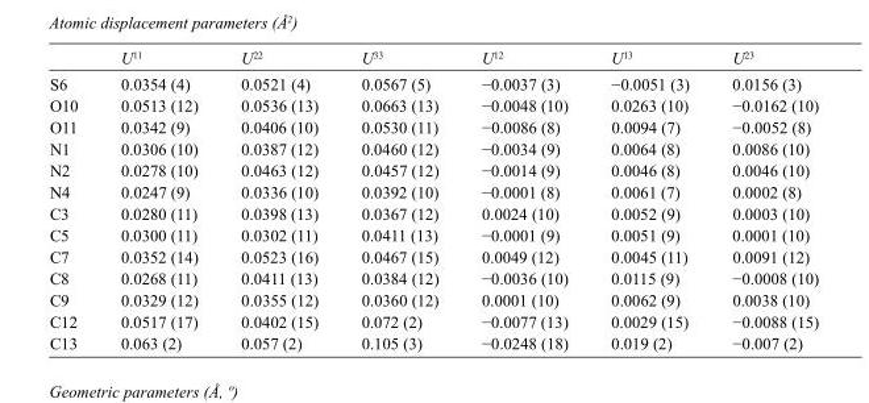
<table><thead><tr><td></td><td>U<sup>11</sup></td><td>U<sup>22</sup></td><td>U<sup>33</sup></td><td>U<sup>12</sup></td><td>U<sup>13</sup></td><td>U<sup>23</sup></td></tr></thead><tbody><tr><td>S6</td><td>0.0354 (4)</td><td>0.0521 (4)</td><td>0.0567 (5)</td><td>−0.0037 (3)</td><td>−0.0051 (3)</td><td>0.0156 (3)</td></tr><tr><td>O10</td><td>0.0513 (12)</td><td>0.0536 (13)</td><td>0.0663 (13)</td><td>−0.0048 (10)</td><td>0.0263 (10)</td><td>−0.0162 (10)</td></tr><tr><td>O11</td><td>0.0342 (9)</td><td>0.0406 (10)</td><td>0.0530 (11)</td><td>−0.0086 (8)</td><td>0.0094 (7)</td><td>−0.0052 (8)</td></tr><tr><td>N1</td><td>0.0306 (10)</td><td>0.0387 (12)</td><td>0.0460 (12)</td><td>−0.0034 (9)</td><td>0.0064 (8)</td><td>0.0086 (10)</td></tr><tr><td>N2</td><td>0.0278 (10)</td><td>0.0463 (12)</td><td>0.0457 (12)</td><td>−0.0014 (9)</td><td>0.0046 (8)</td><td>0.0046 (10)</td></tr><tr><td>N4</td><td>0.0247 (9)</td><td>0.0336 (10)</td><td>0.0392 (10)</td><td>−0.0001 (8)</td><td>0.0061 (7)</td><td>0.0002 (8)</td></tr><tr><td>C3</td><td>0.0280 (11)</td><td>0.0398 (13)</td><td>0.0367 (12)</td><td>0.0024 (10)</td><td>0.0052 (9)</td><td>0.0003 (10)</td></tr><tr><td>C5</td><td>0.0300 (11)</td><td>0.0302 (11)</td><td>0.0411 (13)</td><td>−0.0001 (9)</td><td>0.0051 (9)</td><td>0.0001 (10)</td></tr><tr><td>C7</td><td>0.0352 (14)</td><td>0.0523 (16)</td><td>0.0467 (15)</td><td>0.0049 (12)</td><td>0.0045 (11)</td><td>0.0091 (12)</td></tr><tr><td>C8</td><td>0.0268 (11)</td><td>0.0411 (13)</td><td>0.0384 (12)</td><td>−0.0036 (10)</td><td>0.0115 (9)</td><td>−0.0008 (10)</td></tr><tr><td>C9</td><td>0.0329 (12)</td><td>0.0355 (12)</td><td>0.0360 (12)</td><td>0.0001 (10)</td><td>0.0062 (9)</td><td>0.0038 (10)</td></tr><tr><td>C12</td><td>0.0517 (17)</td><td>0.0402 (15)</td><td>0.072 (2)</td><td>−0.0077 (13)</td><td>0.0029 (15)</td><td>−0.0088 (15)</td></tr><tr><td>C13</td><td>0.063 (2)</td><td>0.057 (2)</td><td>0.105 (3)</td><td>−0.0248 (18)</td><td>0.019 (2)</td><td>−0.007 (2)</td></tr></tbody></table>